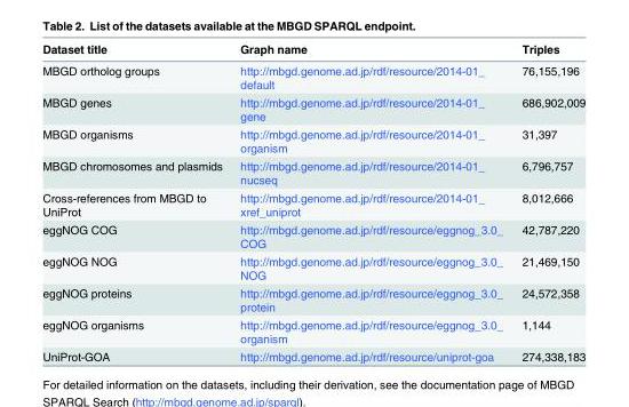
<table><thead><tr><td>Dataset title</td><td>Graph name</td><td>Triples</td></tr></thead><tbody><tr><td>MBGD ortholog groups</td><td>http://mbgd.genome.ad.jp/rdf/resource/2014-01_ default</td><td>76,155,196</td></tr><tr><td>MBGD genes</td><td>http://mbgd.genome.ad.jp/rdf/resource/2014-01_ gene</td><td>686,902,009</td></tr><tr><td>MBGD organisms</td><td>http://mbgd.genome.ad.jp/rdf/resource/2014-01_ organism</td><td>31,397</td></tr><tr><td>MBGD chromosomes and plasmids</td><td>http://mbgd.genome.ad.jp/rdf/resource/2014-01_ nucseq</td><td>6,796,757</td></tr><tr><td>Cross-references from MBGD to UniProt</td><td>http://mbgd.genome.ad.jp/rdf/resource/2014-01_ xref_uniprot</td><td>8,012,666</td></tr><tr><td>eggNOG COG</td><td>http://mbgd.genome.ad.jp/rdf/resource/eggnog_3.0_ COG</td><td>42,787,220</td></tr><tr><td>eggNOG NOG</td><td>http://mbgd.genome.ad.jp/rdf/resource/eggnog_3.0_ NOG</td><td>21,469,150</td></tr><tr><td>eggNOG proteins</td><td>http://mbgd.genome.ad.jp/rdf/resource/eggnog_3.0_ protein</td><td>24,572,358</td></tr><tr><td>eggNOG organisms</td><td>http://mbgd.genome.ad.jp/rdf/resource/eggnog_3.0_ organism</td><td>1,144</td></tr><tr><td>UniProt-GOA</td><td>http://mbgd.genome.ad.jp/rdf/resource/uniprot-goa</td><td>274,338,183</td></tr></tbody></table>